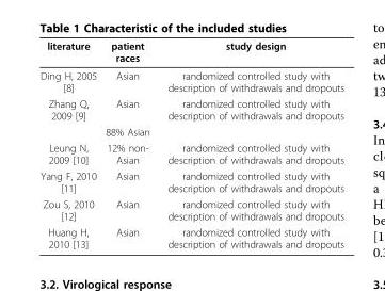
<table><thead><tr><td>literature</td><td>patient races</td><td>study design</td></tr></thead><tbody><tr><td>Ding H, 2005 [8]</td><td>Asian</td><td>randomized controlled study with description of withdrawals and dropouts</td></tr><tr><td rowspan="2">Zhang Q, 2009 [9]</td><td>Asian</td><td>randomized controlled study with description of withdrawals and dropouts</td></tr><tr><td>88% Asian</td><td></td></tr><tr><td>Leung N, 2009 [10]</td><td>12% non- Asian</td><td>randomized controlled study with description of withdrawals and dropouts</td></tr><tr><td>Yang F, 2010 [11]</td><td>Asian</td><td>randomized controlled study with description of withdrawals and dropouts</td></tr><tr><td>Zou S, 2010 [12]</td><td>Asian</td><td>randomized controlled study with description of withdrawals and dropouts</td></tr><tr><td>Huang H, 2010 [13]</td><td>Asian</td><td>randomized controlled study with description of withdrawals and dropouts</td></tr></tbody></table>